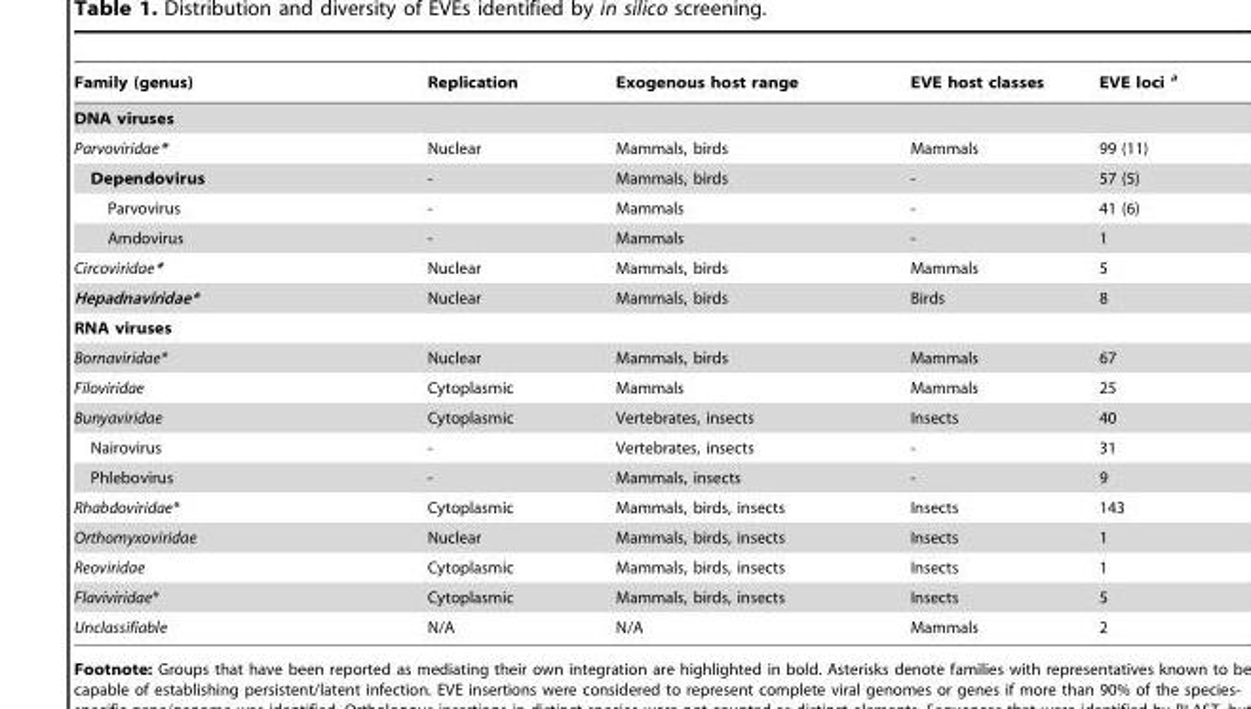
<table><thead><tr><td>Family (genus)</td><td>Replication</td><td>Exogenous host range</td><td>EVE host classes</td><td>EVE loci <sup>a</sup></td></tr></thead><tbody><tr><td colspan="5">DNA viruses</td></tr><tr><td>Parvoviridae*</td><td>Nuclear</td><td>Mammals, birds</td><td>Mammals</td><td>99 (11)</td></tr><tr><td>Dependovirus</td><td>-</td><td>Mammals, birds</td><td>-</td><td>57 (5)</td></tr><tr><td>Parvovirus</td><td>-</td><td>Mammals</td><td>-</td><td>41 (6)</td></tr><tr><td>Amdovirus</td><td>-</td><td>Mammals</td><td>-</td><td>1</td></tr><tr><td>Circoviridae*</td><td>Nuclear</td><td>Mammals, birds</td><td>Mammals</td><td>5</td></tr><tr><td>Hepadnaviridae*</td><td>Nuclear</td><td>Mammals, birds</td><td>Birds</td><td>8</td></tr><tr><td colspan="5">RNA viruses</td></tr><tr><td>Bornaviridae*</td><td>Nuclear</td><td>Mammals, birds</td><td>Mammals</td><td>67</td></tr><tr><td>Filoviridae</td><td>Cytoplasmic</td><td>Mammals</td><td>Mammals</td><td>25</td></tr><tr><td>Bunyaviridae</td><td>Cytoplasmic</td><td>Vertebrates, insects</td><td>Insects</td><td>40</td></tr><tr><td>Nairovirus</td><td>-</td><td>Vertebrates, insects</td><td>-</td><td>31</td></tr><tr><td>Phlebovirus</td><td>-</td><td>Mammals, insects</td><td>-</td><td>9</td></tr><tr><td>Rhabdoviridae*</td><td>Cytoplasmic</td><td>Mammals, birds, insects</td><td>Insects</td><td>143</td></tr><tr><td>Orthomyxoviridae</td><td>Nuclear</td><td>Mammals, birds, insects</td><td>Insects</td><td>1</td></tr><tr><td>Reoviridae</td><td>Cytoplasmic</td><td>Mammals, birds, insects</td><td>Insects</td><td>1</td></tr><tr><td>Flaviviridae*</td><td>Cytoplasmic</td><td>Mammals, birds, insects</td><td>Insects</td><td>5</td></tr><tr><td>Unclassifiable</td><td>N/A</td><td>N/A</td><td>Mammals</td><td>2</td></tr></tbody></table>